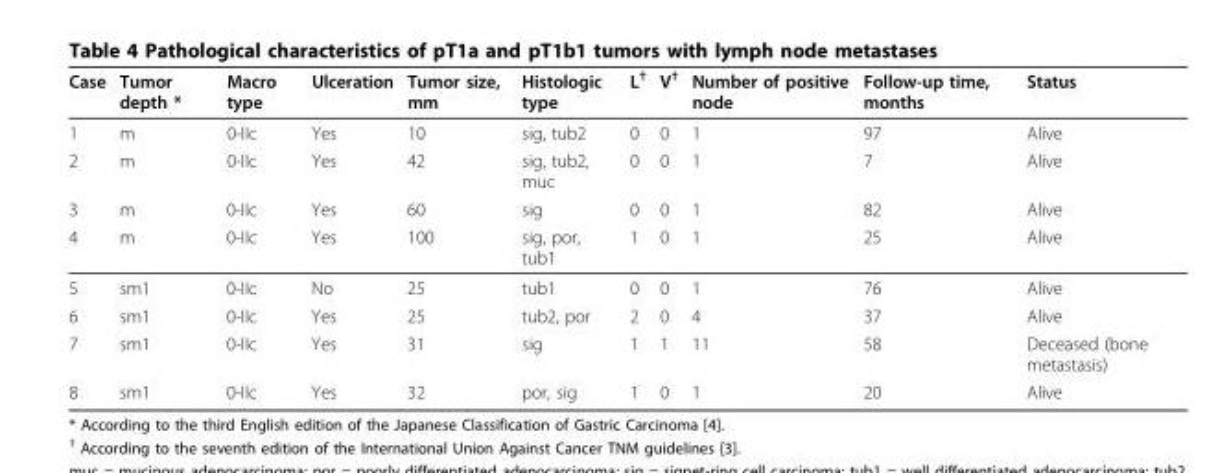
<table><thead><tr><td>Case</td><td>Tumor depth *</td><td>Macro type</td><td>Ulceration</td><td>Tumor size, mm</td><td>Histologic type</td><td>L<sup>†</sup></td><td>V<sup>†</sup></td><td>Number of positive node</td><td>Follow-up time, months</td><td>Status</td></tr></thead><tbody><tr><td>1</td><td>m</td><td>0-IIc</td><td>Yes</td><td>10</td><td>sig, tub2</td><td>0</td><td>0</td><td>1</td><td>97</td><td>Alive</td></tr><tr><td>2</td><td>m</td><td>0-IIc</td><td>Yes</td><td>42</td><td>sig, tub2, muc</td><td>0</td><td>0</td><td>1</td><td>7</td><td>Alive</td></tr><tr><td>3</td><td>m</td><td>0-IIc</td><td>Yes</td><td>60</td><td>sig</td><td>0</td><td>0</td><td>1</td><td>82</td><td>Alive</td></tr><tr><td>4</td><td>m</td><td>0-IIc</td><td>Yes</td><td>100</td><td>sig, por, tub1</td><td>1</td><td>0</td><td>1</td><td>25</td><td>Alive</td></tr><tr><td>5</td><td>sm1</td><td>0-IIc</td><td>No</td><td>25</td><td>tub1</td><td>0</td><td>0</td><td>1</td><td>76</td><td>Alive</td></tr><tr><td>6</td><td>sm1</td><td>0-IIc</td><td>Yes</td><td>25</td><td>tub2, por</td><td>2</td><td>0</td><td>4</td><td>37</td><td>Alive</td></tr><tr><td>7</td><td>sm1</td><td>0-IIc</td><td>Yes</td><td>31</td><td>sig</td><td>1</td><td>1</td><td>11</td><td>58</td><td>Deceased (bone metastasis)</td></tr><tr><td>8</td><td>sm1</td><td>0-IIc</td><td>Yes</td><td>32</td><td>por, sig</td><td>1</td><td>0</td><td>1</td><td>20</td><td>Alive</td></tr></tbody></table>